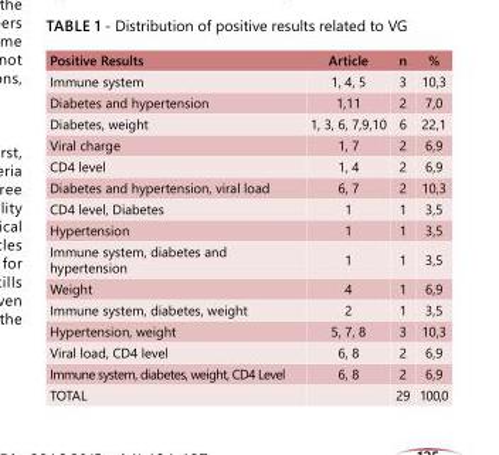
<table><tbody><tr><td>Positive Results</td><td>Article</td><td>n</td><td>%</td></tr><tr><td>Immune system</td><td>1, 4, 5</td><td>3</td><td>10,3</td></tr><tr><td>Diabetes and hypertension</td><td>1,11</td><td>2</td><td>7,0</td></tr><tr><td>Diabetes, weight</td><td>1, 3, 6, 7,9,10</td><td>6</td><td>22,1</td></tr><tr><td>Viral charge</td><td>1, 7</td><td>2</td><td>6,9</td></tr><tr><td>CD4 level</td><td>1, 4</td><td>2</td><td>6,9</td></tr><tr><td>Diabetes and hypertension, viral load</td><td>6, 7</td><td>2</td><td>10,3</td></tr><tr><td>CD4 level, Diabetes</td><td>1</td><td>1</td><td>3,5</td></tr><tr><td>Hypertension</td><td>1</td><td>1</td><td>3,5</td></tr><tr><td>Immune system, diabetes and hypertension</td><td>1</td><td>1</td><td>3,5</td></tr><tr><td>Weight</td><td>4</td><td>1</td><td>6,9</td></tr><tr><td>Immune system, diabetes, weight</td><td>2</td><td>1</td><td>3,5</td></tr><tr><td>Hypertension, weight</td><td>5, 7, 8</td><td>3</td><td>10,3</td></tr><tr><td>Viral load, CD4 level</td><td>6, 8</td><td>2</td><td>6,9</td></tr><tr><td>Immune system, diabetes, weight, CD4 Level</td><td>6, 8</td><td>2</td><td>6,9</td></tr><tr><td>TOTAL</td><td></td><td>29</td><td>100,0</td></tr></tbody></table>